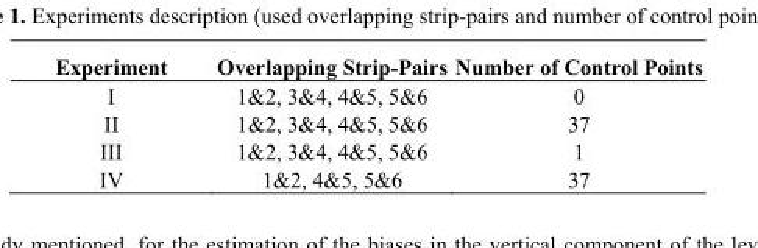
<table><thead><tr><td>Experiment</td><td>Overlapping Strip-Pairs</td><td>Number of Control Points</td></tr></thead><tbody><tr><td>I</td><td>1&amp;2, 3&amp;4, 4&amp;5, 5&amp;6</td><td>0</td></tr><tr><td>II</td><td>1&amp;2, 3&amp;4, 4&amp;5, 5&amp;6</td><td>37</td></tr><tr><td>III</td><td>1&amp;2, 3&amp;4, 4&amp;5, 5&amp;6</td><td>1</td></tr><tr><td>IV</td><td>1&amp;2, 4&amp;5, 5&amp;6</td><td>37</td></tr></tbody></table>